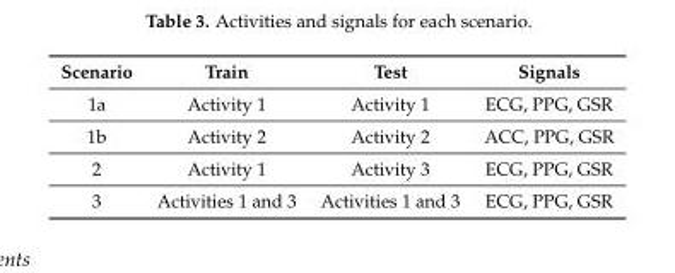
<table><thead><tr><td>Scenario</td><td>Train</td><td>Test</td><td>Signals</td></tr></thead><tbody><tr><td>1a</td><td>Activity 1</td><td>Activity 1</td><td>ECG, PPG, GSR</td></tr><tr><td>1b</td><td>Activity 2</td><td>Activity 2</td><td>ACC, PPG, GSR</td></tr><tr><td>2</td><td>Activity 1</td><td>Activity 3</td><td>ECG, PPG, GSR</td></tr><tr><td>3</td><td>Activities 1 and 3</td><td>Activities 1 and 3</td><td>ECG, PPG, GSR</td></tr></tbody></table>